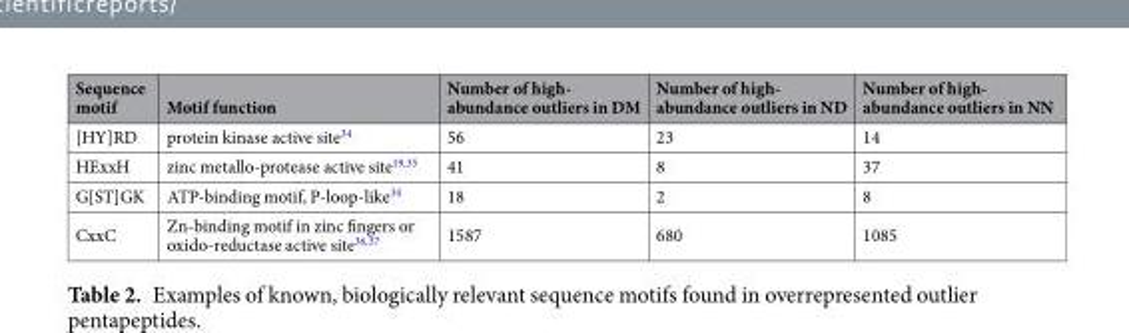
<table><thead><tr><td>Sequence motif</td><td>Motif function</td><td>Number of high- abundance outliers in DM</td><td>Number of high- abundance outliers in ND</td><td>Number of high- abundance outliers in NN</td></tr></thead><tbody><tr><td>[HY]RD</td><td>protein kinase active site<sup>34</sup></td><td>56</td><td>23</td><td>14</td></tr><tr><td>HExxH</td><td>zinc metallo-protease active site<sup>19,35</sup></td><td>41</td><td>8</td><td>37</td></tr><tr><td>G[ST]GK</td><td>ATP-binding motif, P-loop-like<sup>34</sup></td><td>18</td><td>2</td><td>8</td></tr><tr><td>CxxC</td><td>Zn-binding motif in zinc fingers or oxido-reductase active site<sup>36,37</sup></td><td>1587</td><td>680</td><td>1085</td></tr></tbody></table>